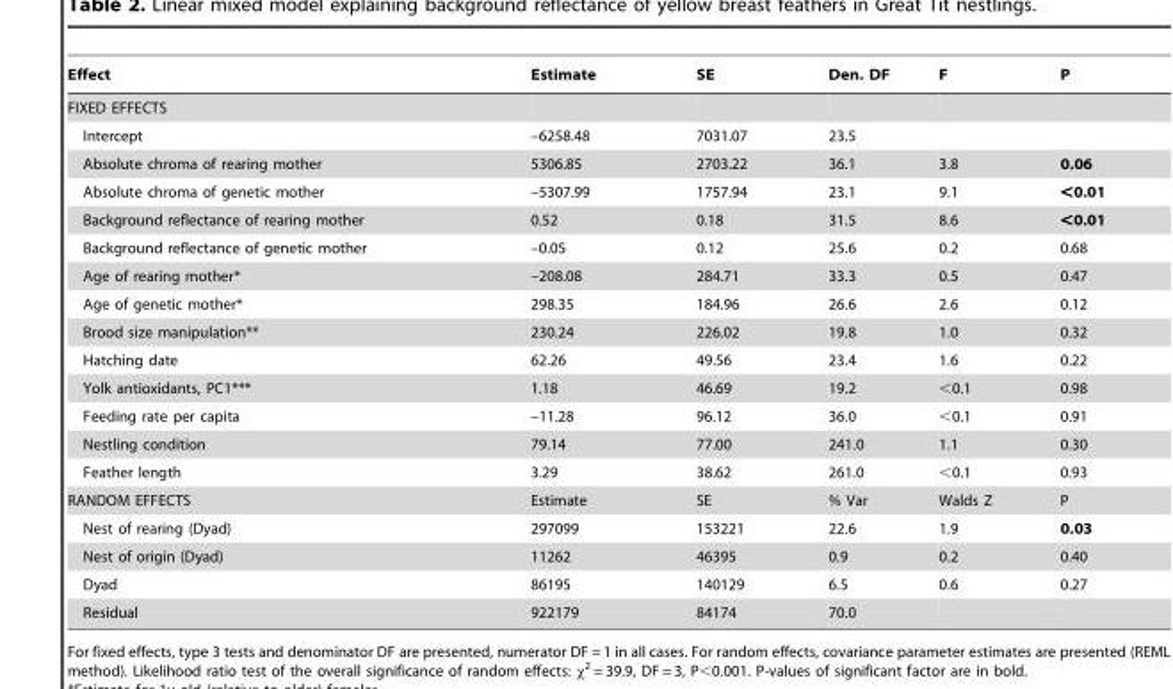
<table><thead><tr><td>Effect</td><td>Estimate</td><td>SE</td><td>Den. DF</td><td>F</td><td>P</td></tr></thead><tbody><tr><td colspan="6">FIXED EFFECTS</td></tr><tr><td>Intercept</td><td>–6258.48</td><td>7031.07</td><td>23.5</td><td></td><td></td></tr><tr><td>Absolute chroma of rearing mother</td><td>5306.85</td><td>2703.22</td><td>36.1</td><td>3.8</td><td>0.06</td></tr><tr><td>Absolute chroma of genetic mother</td><td>–5307.99</td><td>1757.94</td><td>23.1</td><td>9.1</td><td>&lt;0.01</td></tr><tr><td>Background reflectance of rearing mother</td><td>0.52</td><td>0.18</td><td>31.5</td><td>8.6</td><td>&lt;0.01</td></tr><tr><td>Background reflectance of genetic mother</td><td>–0.05</td><td>0.12</td><td>25.6</td><td>0.2</td><td>0.68</td></tr><tr><td>Age of rearing mother*</td><td>–208.08</td><td>284.71</td><td>33.3</td><td>0.5</td><td>0.47</td></tr><tr><td>Age of genetic mother*</td><td>298.35</td><td>184.96</td><td>26.6</td><td>2.6</td><td>0.12</td></tr><tr><td>Brood size manipulation**</td><td>230.24</td><td>226.02</td><td>19.8</td><td>1.0</td><td>0.32</td></tr><tr><td>Hatching date</td><td>62.26</td><td>49.56</td><td>23.4</td><td>1.6</td><td>0.22</td></tr><tr><td>Yolk antioxidants, PC1***</td><td>1.18</td><td>46.69</td><td>19.2</td><td>&lt;0.1</td><td>0.98</td></tr><tr><td>Feeding rate per capita</td><td>–11.28</td><td>96.12</td><td>36.0</td><td>&lt;0.1</td><td>0.91</td></tr><tr><td>Nestling condition</td><td>79.14</td><td>77.00</td><td>241.0</td><td>1.1</td><td>0.30</td></tr><tr><td>Feather length</td><td>3.29</td><td>38.62</td><td>261.0</td><td>&lt;0.1</td><td>0.93</td></tr><tr><td>RANDOM EFFECTS</td><td>Estimate</td><td>SE</td><td>% Var</td><td>Walds Z</td><td>P</td></tr><tr><td>Nest of rearing (Dyad)</td><td>297099</td><td>153221</td><td>22.6</td><td>1.9</td><td>0.03</td></tr><tr><td>Nest of origin (Dyad)</td><td>11262</td><td>46395</td><td>0.9</td><td>0.2</td><td>0.40</td></tr><tr><td>Dyad</td><td>86195</td><td>140129</td><td>6.5</td><td>0.6</td><td>0.27</td></tr><tr><td>Residual</td><td>922179</td><td>84174</td><td>70.0</td><td></td><td></td></tr></tbody></table>